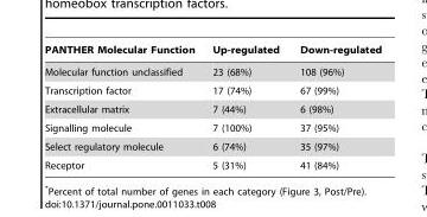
<table><thead><tr><td>PANTHER Molecular Function</td><td>Up-regulated</td><td>Down-regulated</td></tr></thead><tbody><tr><td>Molecular function unclassified</td><td>23 (68%)</td><td>108 (96%)</td></tr><tr><td>Transcription factor</td><td>17 (74%)</td><td>67 (99%)</td></tr><tr><td>Extracellular matrix</td><td>7 (44%)</td><td>6 (98%)</td></tr><tr><td>Signalling molecule</td><td>7 (100%)</td><td>37 (95%)</td></tr><tr><td>Select regulatory molecule</td><td>6 (74%)</td><td>35 (97%)</td></tr><tr><td>Receptor</td><td>5 (31%)</td><td>41 (84%)</td></tr></tbody></table>